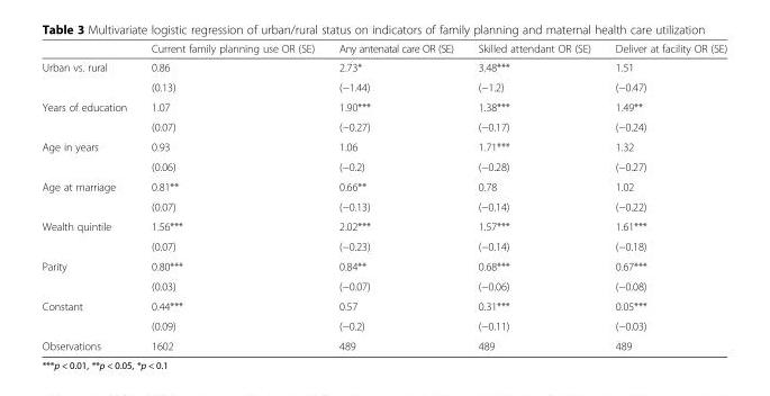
<table><thead><tr><td></td><td>Current family planning use OR (SE)</td><td>Any antenatal care OR (SE)</td><td>Skilled attendant OR (SE)</td><td>Deliver at facility OR (SE)</td></tr></thead><tbody><tr><td rowspan="2">Urban vs. rural</td><td>0.86</td><td>2.73*</td><td>3.48***</td><td>1.51</td></tr><tr><td>(0.13)</td><td>(−1.44)</td><td>(−1.2)</td><td>(−0.47)</td></tr><tr><td rowspan="2">Years of education</td><td>1.07</td><td>1.90***</td><td>1.38***</td><td>1.49**</td></tr><tr><td>(0.07)</td><td>(−0.27)</td><td>(−0.17)</td><td>(−0.24)</td></tr><tr><td rowspan="2">Age in years</td><td>0.93</td><td>1.06</td><td>1.71***</td><td>1.32</td></tr><tr><td>(0.06)</td><td>(−0.2)</td><td>(−0.28)</td><td>(−0.27)</td></tr><tr><td rowspan="2">Age at marriage</td><td>0.81**</td><td>0.66**</td><td>0.78</td><td>1.02</td></tr><tr><td>(0.07)</td><td>(−0.13)</td><td>(−0.14)</td><td>(−0.22)</td></tr><tr><td rowspan="2">Wealth quintile</td><td>1.56***</td><td>2.02***</td><td>1.57***</td><td>1.61***</td></tr><tr><td>(0.07)</td><td>(−0.23)</td><td>(−0.14)</td><td>(−0.18)</td></tr><tr><td rowspan="2">Parity</td><td>0.80***</td><td>0.84**</td><td>0.68***</td><td>0.67***</td></tr><tr><td>(0.03)</td><td>(−0.07)</td><td>(−0.06)</td><td>(−0.08)</td></tr><tr><td rowspan="2">Constant</td><td>0.44***</td><td>0.57</td><td>0.31***</td><td>0.05***</td></tr><tr><td>(0.09)</td><td>(−0.2)</td><td>(−0.11)</td><td>(−0.03)</td></tr><tr><td>Observations</td><td>1602</td><td>489</td><td>489</td><td>489</td></tr></tbody></table>